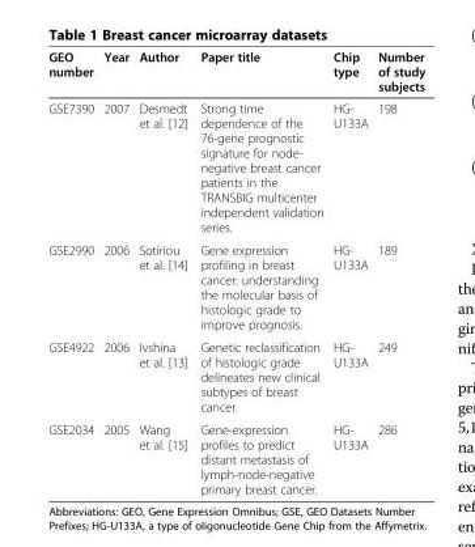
<table><thead><tr><td>GEO number</td><td>Year</td><td>Author</td><td>Paper title</td><td>Chip type</td><td>Number of study subjects</td></tr></thead><tbody><tr><td>GSE7390</td><td>2007</td><td>Desmedt et al. [12]</td><td>Strong time dependence of the 76-gene prognostic signature for node- negative breast cancer patients in the TRANSBIG multicenter independent validation series.</td><td>HG- U133A</td><td>198</td></tr><tr><td>GSE2990</td><td>2006</td><td>Sotiriou et al. [14]</td><td>Gene expression profiling in breast cancer: understanding the molecular basis of histologic grade to improve prognosis.</td><td>HG- U133A</td><td>189</td></tr><tr><td>GSE4922</td><td>2006</td><td>Ivshina et al. [13]</td><td>Genetic reclassification of histologic grade delineates new clinical subtypes of breast cancer.</td><td>HG- U133A</td><td>249</td></tr><tr><td>GSE2034</td><td>2005</td><td>Wang et al. [15]</td><td>Gene-expression profiles to predict distant metastasis of lymph-node-negative primary breast cancer.</td><td>HG- U133A</td><td>286</td></tr></tbody></table>